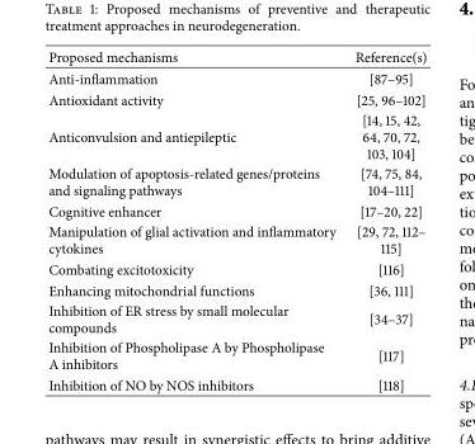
<table><thead><tr><td>Proposed mechanisms</td><td>Reference(s)</td></tr></thead><tbody><tr><td>Anti-inflammation</td><td>[87–95]</td></tr><tr><td>Antioxidant activity</td><td>[25, 96–102]</td></tr><tr><td>Anticonvulsion and antiepileptic</td><td>[14, 15, 42, 64, 70, 72, 103, 104]</td></tr><tr><td>Modulation of apoptosis-related genes/proteins and signaling pathways</td><td>[74, 75, 84, 104–111]</td></tr><tr><td>Cognitive enhancer</td><td>[17–20, 22]</td></tr><tr><td>Manipulation of glial activation and inflammatory cytokines</td><td>[29, 72, 112– 115]</td></tr><tr><td>Combating excitotoxicity</td><td>[116]</td></tr><tr><td>Enhancing mitochondrial functions</td><td>[36, 111]</td></tr><tr><td>Inhibition of ER stress by small molecular compounds</td><td>[34–37]</td></tr><tr><td>Inhibition of Phospholipase A by Phospholipase A inhibitors</td><td>[117]</td></tr><tr><td>Inhibition of NO by NOS inhibitors</td><td>[118]</td></tr></tbody></table>